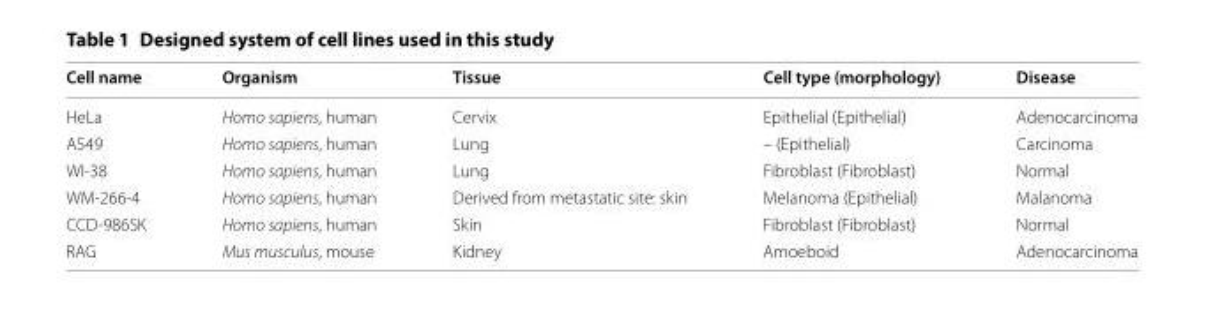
<table><thead><tr><td>Cell name</td><td>Organism</td><td>Tissue</td><td>Cell type (morphology)</td><td>Disease</td></tr></thead><tbody><tr><td>HeLa</td><td>Homo sapiens, human</td><td>Cervix</td><td>Epithelial (Epithelial)</td><td>Adenocarcinoma</td></tr><tr><td>A549</td><td>Homo sapiens, human</td><td>Lung</td><td>– (Epithelial)</td><td>Carcinoma</td></tr><tr><td>WI‑38</td><td>Homo sapiens, human</td><td>Lung</td><td>Fibroblast (Fibroblast)</td><td>Normal</td></tr><tr><td>WM‑266‑4</td><td>Homo sapiens, human</td><td>Derived from metastatic site: skin</td><td>Melanoma (Epithelial)</td><td>Malanoma</td></tr><tr><td>CCD‑986SK</td><td>Homo sapiens, human</td><td>Skin</td><td>Fibroblast (Fibroblast)</td><td>Normal</td></tr><tr><td>RAG</td><td>Mus musculus, mouse</td><td>Kidney</td><td>Amoeboid</td><td>Adenocarcinoma</td></tr></tbody></table>